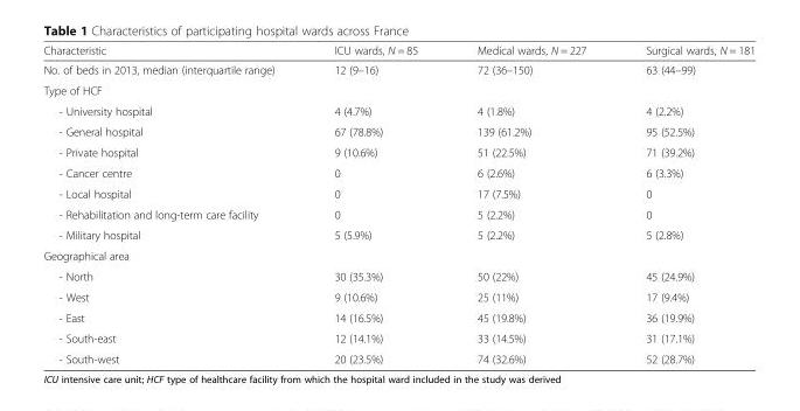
<table><thead><tr><td>Characteristic</td><td>ICU wards, N = 85</td><td>Medical wards, N = 227</td><td>Surgical wards, N = 181</td></tr></thead><tbody><tr><td>No. of beds in 2013, median (interquartile range)</td><td>12 (9–16)</td><td>72 (36–150)</td><td>63 (44–99)</td></tr><tr><td colspan="4">Type of HCF</td></tr><tr><td>- University hospital</td><td>4 (4.7%)</td><td>4 (1.8%)</td><td>4 (2.2%)</td></tr><tr><td>- General hospital</td><td>67 (78.8%)</td><td>139 (61.2%)</td><td>95 (52.5%)</td></tr><tr><td>- Private hospital</td><td>9 (10.6%)</td><td>51 (22.5%)</td><td>71 (39.2%)</td></tr><tr><td>- Cancer centre</td><td>0</td><td>6 (2.6%)</td><td>6 (3.3%)</td></tr><tr><td>- Local hospital</td><td>0</td><td>17 (7.5%)</td><td>0</td></tr><tr><td>- Rehabilitation and long-term care facility</td><td>0</td><td>5 (2.2%)</td><td>0</td></tr><tr><td>- Military hospital</td><td>5 (5.9%)</td><td>5 (2.2%)</td><td>5 (2.8%)</td></tr><tr><td colspan="4">Geographical area</td></tr><tr><td>- North</td><td>30 (35.3%)</td><td>50 (22%)</td><td>45 (24.9%)</td></tr><tr><td>- West</td><td>9 (10.6%)</td><td>25 (11%)</td><td>17 (9.4%)</td></tr><tr><td>- East</td><td>14 (16.5%)</td><td>45 (19.8%)</td><td>36 (19.9%)</td></tr><tr><td>- South-east</td><td>12 (14.1%)</td><td>33 (14.5%)</td><td>31 (17.1%)</td></tr><tr><td>- South-west</td><td>20 (23.5%)</td><td>74 (32.6%)</td><td>52 (28.7%)</td></tr></tbody></table>